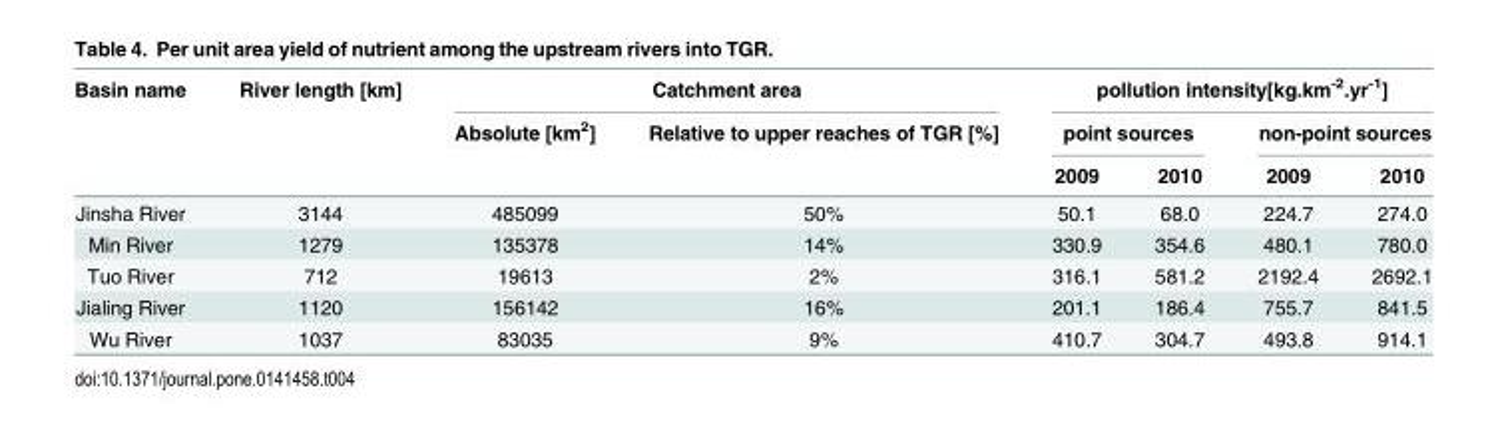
<table><thead><tr><td rowspan="3">Basin name</td><td rowspan="3">River length [km]</td><td colspan="2">Catchment area</td><td colspan="4">pollution intensity[kg.km<sup>-2</sup>.yr<sup>-1</sup>]</td></tr><tr><td rowspan="2">Absolute [km<sup>2</sup>]</td><td rowspan="2">Relative to upper reaches of TGR [%]</td><td colspan="2">point sources</td><td colspan="2">non-point sources</td></tr><tr><td>2009</td><td>2010</td><td>2009</td><td>2010</td></tr></thead><tbody><tr><td>Jinsha River</td><td>3144</td><td>485099</td><td>50%</td><td>50.1</td><td>68.0</td><td>224.7</td><td>274.0</td></tr><tr><td>Min River</td><td>1279</td><td>135378</td><td>14%</td><td>330.9</td><td>354.6</td><td>480.1</td><td>780.0</td></tr><tr><td>Tuo River</td><td>712</td><td>19613</td><td>2%</td><td>316.1</td><td>581.2</td><td>2192.4</td><td>2692.1</td></tr><tr><td>Jialing River</td><td>1120</td><td>156142</td><td>16%</td><td>201.1</td><td>186.4</td><td>755.7</td><td>841.5</td></tr><tr><td>Wu River</td><td>1037</td><td>83035</td><td>9%</td><td>410.7</td><td>304.7</td><td>493.8</td><td>914.1</td></tr></tbody></table>